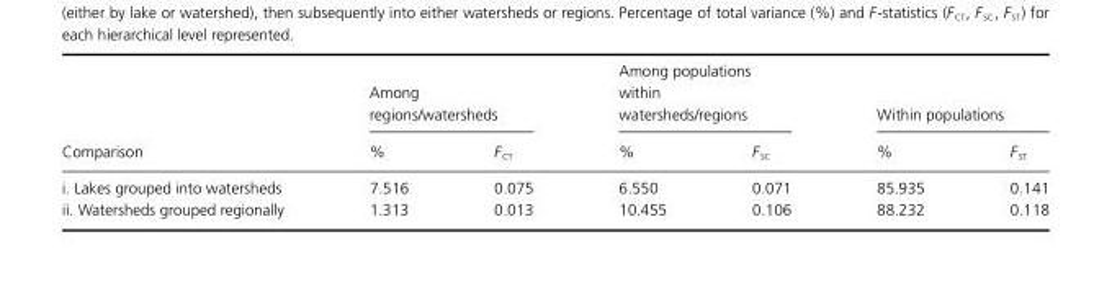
<table><thead><tr><td rowspan="2">Comparison</td><td colspan="2">Among regions/watersheds</td><td colspan="2">Among populations within watersheds/regions</td><td colspan="2">Within populations</td></tr><tr><td>%</td><td>F<sub>CT</sub></td><td>%</td><td>F<sub>SC</sub></td><td>%</td><td>F<sub>ST</sub></td></tr></thead><tbody><tr><td>i. Lakes grouped into watersheds</td><td>7.516</td><td>0.075</td><td>6.550</td><td>0.071</td><td>85.935</td><td>0.141</td></tr><tr><td>ii. Watersheds grouped regionally</td><td>1.313</td><td>0.013</td><td>10.455</td><td>0.106</td><td>88.232</td><td>0.118</td></tr></tbody></table>